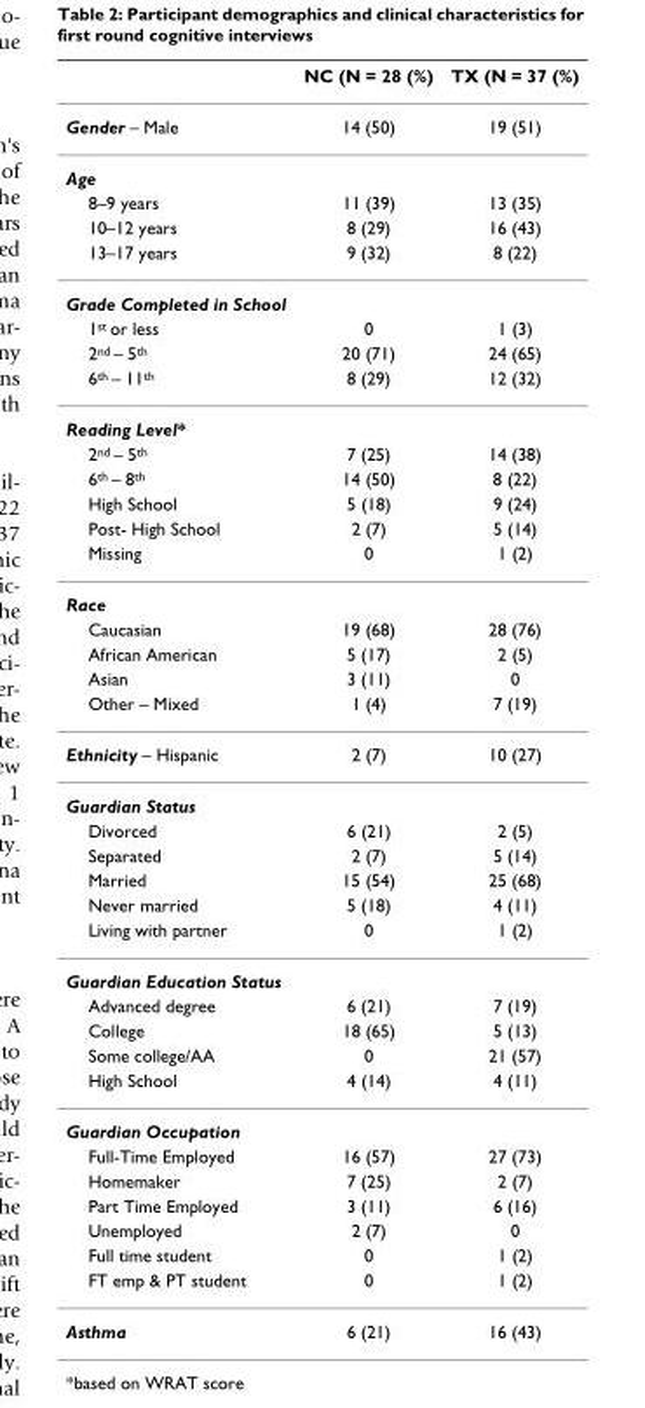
<table><thead><tr><td></td><td>NC (N = 28 (%)</td><td>TX (N = 37 (%)</td></tr></thead><tbody><tr><td>Gender – Male</td><td>14 (50)</td><td>19 (51)</td></tr><tr><td colspan="3">Age</td></tr><tr><td>8–9 years</td><td>11 (39)</td><td>13 (35)</td></tr><tr><td>10–12 years</td><td>8 (29)</td><td>16 (43)</td></tr><tr><td>13–17 years</td><td>9 (32)</td><td>8 (22)</td></tr><tr><td colspan="3">Grade Completed in School</td></tr><tr><td>1<sup>st</sup> or less</td><td>0</td><td>1 (3)</td></tr><tr><td>2<sup>nd</sup> – 5<sup>th</sup></td><td>20 (71)</td><td>24 (65)</td></tr><tr><td>6<sup>th</sup> – 11<sup>th</sup></td><td>8 (29)</td><td>12 (32)</td></tr><tr><td colspan="3">Reading Level*</td></tr><tr><td>2<sup>nd</sup> – 5<sup>th</sup></td><td>7 (25)</td><td>14 (38)</td></tr><tr><td>6<sup>th</sup> – 8<sup>th</sup></td><td>14 (50)</td><td>8 (22)</td></tr><tr><td>High School</td><td>5 (18)</td><td>9 (24)</td></tr><tr><td>Post- High School</td><td>2 (7)</td><td>5 (14)</td></tr><tr><td>Missing</td><td>0</td><td>1 (2)</td></tr><tr><td colspan="3">Race</td></tr><tr><td>Caucasian</td><td>19 (68)</td><td>28 (76)</td></tr><tr><td>African American</td><td>5 (17)</td><td>2 (5)</td></tr><tr><td>Asian</td><td>3 (11)</td><td>0</td></tr><tr><td>Other – Mixed</td><td>1 (4)</td><td>7 (19)</td></tr><tr><td>Ethnicity – Hispanic</td><td>2 (7)</td><td>10 (27)</td></tr><tr><td colspan="3">Guardian Status</td></tr><tr><td>Divorced</td><td>6 (21)</td><td>2 (5)</td></tr><tr><td>Separated</td><td>2 (7)</td><td>5 (14)</td></tr><tr><td>Married</td><td>15 (54)</td><td>25 (68)</td></tr><tr><td>Never married</td><td>5 (18)</td><td>4 (11)</td></tr><tr><td>Living with partner</td><td>0</td><td>1 (2)</td></tr><tr><td colspan="3">Guardian Education Status</td></tr><tr><td>Advanced degree</td><td>6 (21)</td><td>7 (19)</td></tr><tr><td>College</td><td>18 (65)</td><td>5 (13)</td></tr><tr><td>Some college/AA</td><td>0</td><td>21 (57)</td></tr><tr><td>High School</td><td>4 (14)</td><td>4 (11)</td></tr><tr><td colspan="3">Guardian Occupation</td></tr><tr><td>Full-Time Employed</td><td>16 (57)</td><td>27 (73)</td></tr><tr><td>Homemaker</td><td>7 (25)</td><td>2 (7)</td></tr><tr><td>Part Time Employed</td><td>3 (11)</td><td>6 (16)</td></tr><tr><td>Unemployed</td><td>2 (7)</td><td>0</td></tr><tr><td>Full time student</td><td>0</td><td>1 (2)</td></tr><tr><td>FT emp &amp; PT student</td><td>0</td><td>1 (2)</td></tr><tr><td>Asthma</td><td>6 (21)</td><td>16 (43)</td></tr></tbody></table>